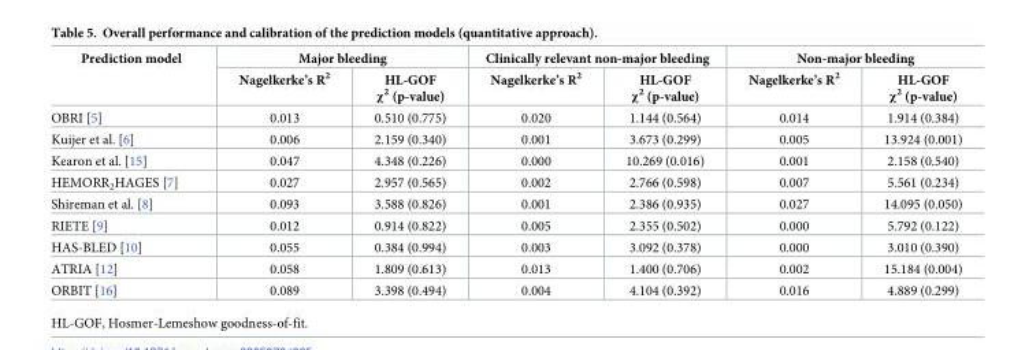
<table><thead><tr><td rowspan="2">Prediction model</td><td colspan="2">Major bleeding</td><td colspan="2">Clinically relevant non-major bleeding</td><td colspan="2">Non-major bleeding</td></tr><tr><td>Nagelkerke’s R<sup>2</sup></td><td>HL-GOF χ<sup>2</sup> (p-value)</td><td>Nagelkerke’s R<sup>2</sup></td><td>HL-GOF χ<sup>2</sup> (p-value)</td><td>Nagelkerke’s R<sup>2</sup></td><td>HL-GOF χ<sup>2</sup> (p-value)</td></tr></thead><tbody><tr><td>OBRI [5]</td><td>0.013</td><td>0.510 (0.775)</td><td>0.020</td><td>1.144 (0.564)</td><td>0.014</td><td>1.914 (0.384)</td></tr><tr><td>Kuijer et al. [6]</td><td>0.006</td><td>2.159 (0.340)</td><td>0.001</td><td>3.673 (0.299)</td><td>0.005</td><td>13.924 (0.001)</td></tr><tr><td>Kearon et al. [15]</td><td>0.047</td><td>4.348 (0.226)</td><td>0.000</td><td>10.269 (0.016)</td><td>0.001</td><td>2.158 (0.540)</td></tr><tr><td>HEMORR<sub>2</sub>HAGES [7]</td><td>0.027</td><td>2.957 (0.565)</td><td>0.002</td><td>2.766 (0.598)</td><td>0.007</td><td>5.561 (0.234)</td></tr><tr><td>Shireman et al. [8]</td><td>0.093</td><td>3.588 (0.826)</td><td>0.001</td><td>2.386 (0.935)</td><td>0.027</td><td>14.095 (0.050)</td></tr><tr><td>RIETE [9]</td><td>0.012</td><td>0.914 (0.822)</td><td>0.005</td><td>2.355 (0.502)</td><td>0.000</td><td>5.792 (0.122)</td></tr><tr><td>HAS-BLED [10]</td><td>0.055</td><td>0.384 (0.994)</td><td>0.003</td><td>3.092 (0.378)</td><td>0.000</td><td>3.010 (0.390)</td></tr><tr><td>ATRIA [12]</td><td>0.058</td><td>1.809 (0.613)</td><td>0.013</td><td>1.400 (0.706)</td><td>0.002</td><td>15.184 (0.004)</td></tr><tr><td>ORBIT [16]</td><td>0.089</td><td>3.398 (0.494)</td><td>0.004</td><td>4.104 (0.392)</td><td>0.016</td><td>4.889 (0.299)</td></tr></tbody></table>